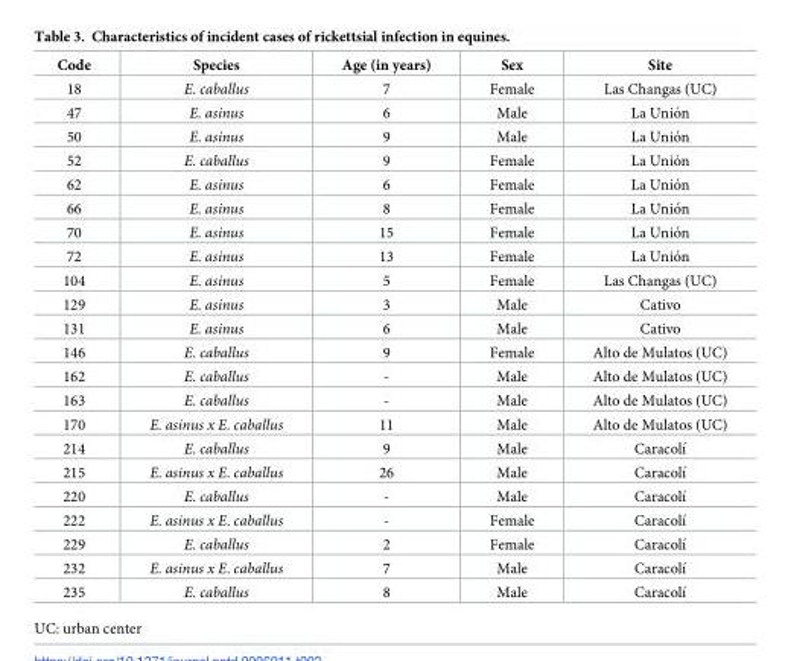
<table><thead><tr><td>Code</td><td>Species</td><td>Age (in years)</td><td>Sex</td><td>Site</td></tr></thead><tbody><tr><td>18</td><td>E. caballus</td><td>7</td><td>Female</td><td>Las Changas (UC)</td></tr><tr><td>47</td><td>E. asinus</td><td>6</td><td>Male</td><td>La Unio´n</td></tr><tr><td>50</td><td>E. asinus</td><td>9</td><td>Male</td><td>La Unio´n</td></tr><tr><td>52</td><td>E. caballus</td><td>9</td><td>Female</td><td>La Unio´n</td></tr><tr><td>62</td><td>E. asinus</td><td>6</td><td>Female</td><td>La Unio´n</td></tr><tr><td>66</td><td>E. asinus</td><td>8</td><td>Female</td><td>La Unio´n</td></tr><tr><td>70</td><td>E. asinus</td><td>15</td><td>Female</td><td>La Unio´n</td></tr><tr><td>72</td><td>E. asinus</td><td>13</td><td>Female</td><td>La Unio´n</td></tr><tr><td>104</td><td>E. asinus</td><td>5</td><td>Female</td><td>Las Changas (UC)</td></tr><tr><td>129</td><td>E. asinus</td><td>3</td><td>Male</td><td>Cativo</td></tr><tr><td>131</td><td>E. asinus</td><td>6</td><td>Male</td><td>Cativo</td></tr><tr><td>146</td><td>E. caballus</td><td>9</td><td>Female</td><td>Alto de Mulatos (UC)</td></tr><tr><td>162</td><td>E. caballus</td><td>-</td><td>Male</td><td>Alto de Mulatos (UC)</td></tr><tr><td>163</td><td>E. caballus</td><td>-</td><td>Male</td><td>Alto de Mulatos (UC)</td></tr><tr><td>170</td><td>E. asinus x E. caballus</td><td>11</td><td>Male</td><td>Alto de Mulatos (UC)</td></tr><tr><td>214</td><td>E. caballus</td><td>9</td><td>Male</td><td>Caracolı´</td></tr><tr><td>215</td><td>E. asinus x E. caballus</td><td>26</td><td>Male</td><td>Caracolı´</td></tr><tr><td>220</td><td>E. caballus</td><td>-</td><td>Male</td><td>Caracolı´</td></tr><tr><td>222</td><td>E. asinus x E. caballus</td><td>-</td><td>Female</td><td>Caracolı´</td></tr><tr><td>229</td><td>E. caballus</td><td>2</td><td>Female</td><td>Caracolı´</td></tr><tr><td>232</td><td>E. asinus x E. caballus</td><td>7</td><td>Male</td><td>Caracolı´</td></tr><tr><td>235</td><td>E. caballus</td><td>8</td><td>Male</td><td>Caracolı´</td></tr></tbody></table>